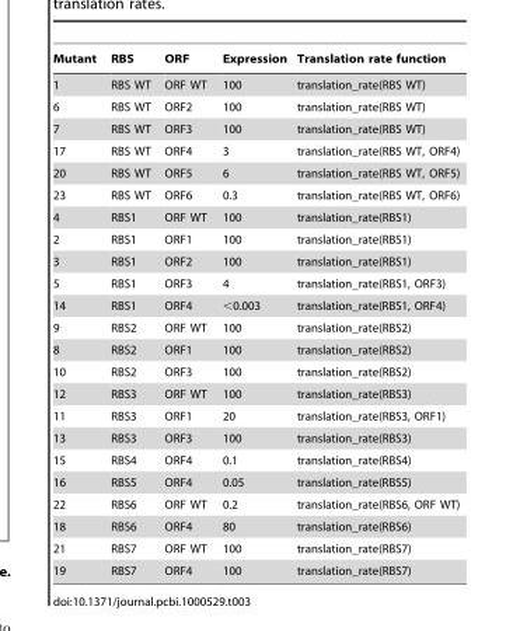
<table><thead><tr><td>Mutant</td><td>RBS</td><td>ORF</td><td>Expression</td><td>Translation rate function</td></tr></thead><tbody><tr><td>1</td><td>RBS WT</td><td>ORF WT</td><td>100</td><td>translation_rate(RBS WT)</td></tr><tr><td>6</td><td>RBS WT</td><td>ORF2</td><td>100</td><td>translation_rate(RBS WT)</td></tr><tr><td>7</td><td>RBS WT</td><td>ORF3</td><td>100</td><td>translation_rate(RBS WT)</td></tr><tr><td>17</td><td>RBS WT</td><td>ORF4</td><td>3</td><td>translation_rate(RBS WT, ORF4)</td></tr><tr><td>20</td><td>RBS WT</td><td>ORF5</td><td>6</td><td>translation_rate(RBS WT, ORF5)</td></tr><tr><td>23</td><td>RBS WT</td><td>ORF6</td><td>0.3</td><td>translation_rate(RBS WT, ORF6)</td></tr><tr><td>4</td><td>RBS1</td><td>ORF WT</td><td>100</td><td>translation_rate(RBS1)</td></tr><tr><td>2</td><td>RBS1</td><td>ORF1</td><td>100</td><td>translation_rate(RBS1)</td></tr><tr><td>3</td><td>RBS1</td><td>ORF2</td><td>100</td><td>translation_rate(RBS1)</td></tr><tr><td>5</td><td>RBS1</td><td>ORF3</td><td>4</td><td>translation_rate(RBS1, ORF3)</td></tr><tr><td>14</td><td>RBS1</td><td>ORF4</td><td>&lt;0.003</td><td>translation_rate(RBS1, ORF4)</td></tr><tr><td>9</td><td>RBS2</td><td>ORF WT</td><td>100</td><td>translation_rate(RBS2)</td></tr><tr><td>8</td><td>RBS2</td><td>ORF1</td><td>100</td><td>translation_rate(RBS2)</td></tr><tr><td>10</td><td>RBS2</td><td>ORF3</td><td>100</td><td>translation_rate(RBS2)</td></tr><tr><td>12</td><td>RBS3</td><td>ORF WT</td><td>100</td><td>translation_rate(RBS3)</td></tr><tr><td>11</td><td>RBS3</td><td>ORF1</td><td>20</td><td>translation_rate(RBS3, ORF1)</td></tr><tr><td>13</td><td>RBS3</td><td>ORF3</td><td>100</td><td>translation_rate(RBS3)</td></tr><tr><td>15</td><td>RBS4</td><td>ORF4</td><td>0.1</td><td>translation_rate(RBS4)</td></tr><tr><td>16</td><td>RBS5</td><td>ORF4</td><td>0.05</td><td>translation_rate(RBS5)</td></tr><tr><td>22</td><td>RBS6</td><td>ORF WT</td><td>0.2</td><td>translation_rate(RBS6, ORF WT)</td></tr><tr><td>18</td><td>RBS6</td><td>ORF4</td><td>80</td><td>translation_rate(RBS6)</td></tr><tr><td>21</td><td>RBS7</td><td>ORF WT</td><td>100</td><td>translation_rate(RBS7)</td></tr><tr><td>19</td><td>RBS7</td><td>ORF4</td><td>100</td><td>translation_rate(RBS7)</td></tr></tbody></table>